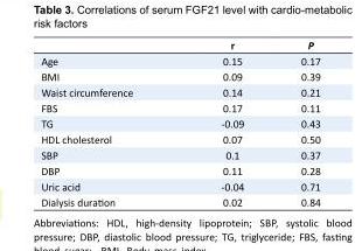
<table><thead><tr><td></td><td>r</td><td>P</td></tr></thead><tbody><tr><td>Age</td><td>0.15</td><td>0.17</td></tr><tr><td>BMI</td><td>0.09</td><td>0.39</td></tr><tr><td>Waist circumference</td><td>0.14</td><td>0.21</td></tr><tr><td>FBS</td><td>0.17</td><td>0.11</td></tr><tr><td>TG</td><td>-0.09</td><td>0.43</td></tr><tr><td>HDL cholesterol</td><td>0.07</td><td>0.50</td></tr><tr><td>SBP</td><td>0.1</td><td>0.37</td></tr><tr><td>DBP</td><td>0.11</td><td>0.28</td></tr><tr><td>Uric acid</td><td>-0.04</td><td>0.71</td></tr><tr><td>Dialysis duration</td><td>0.02</td><td>0.84</td></tr></tbody></table>